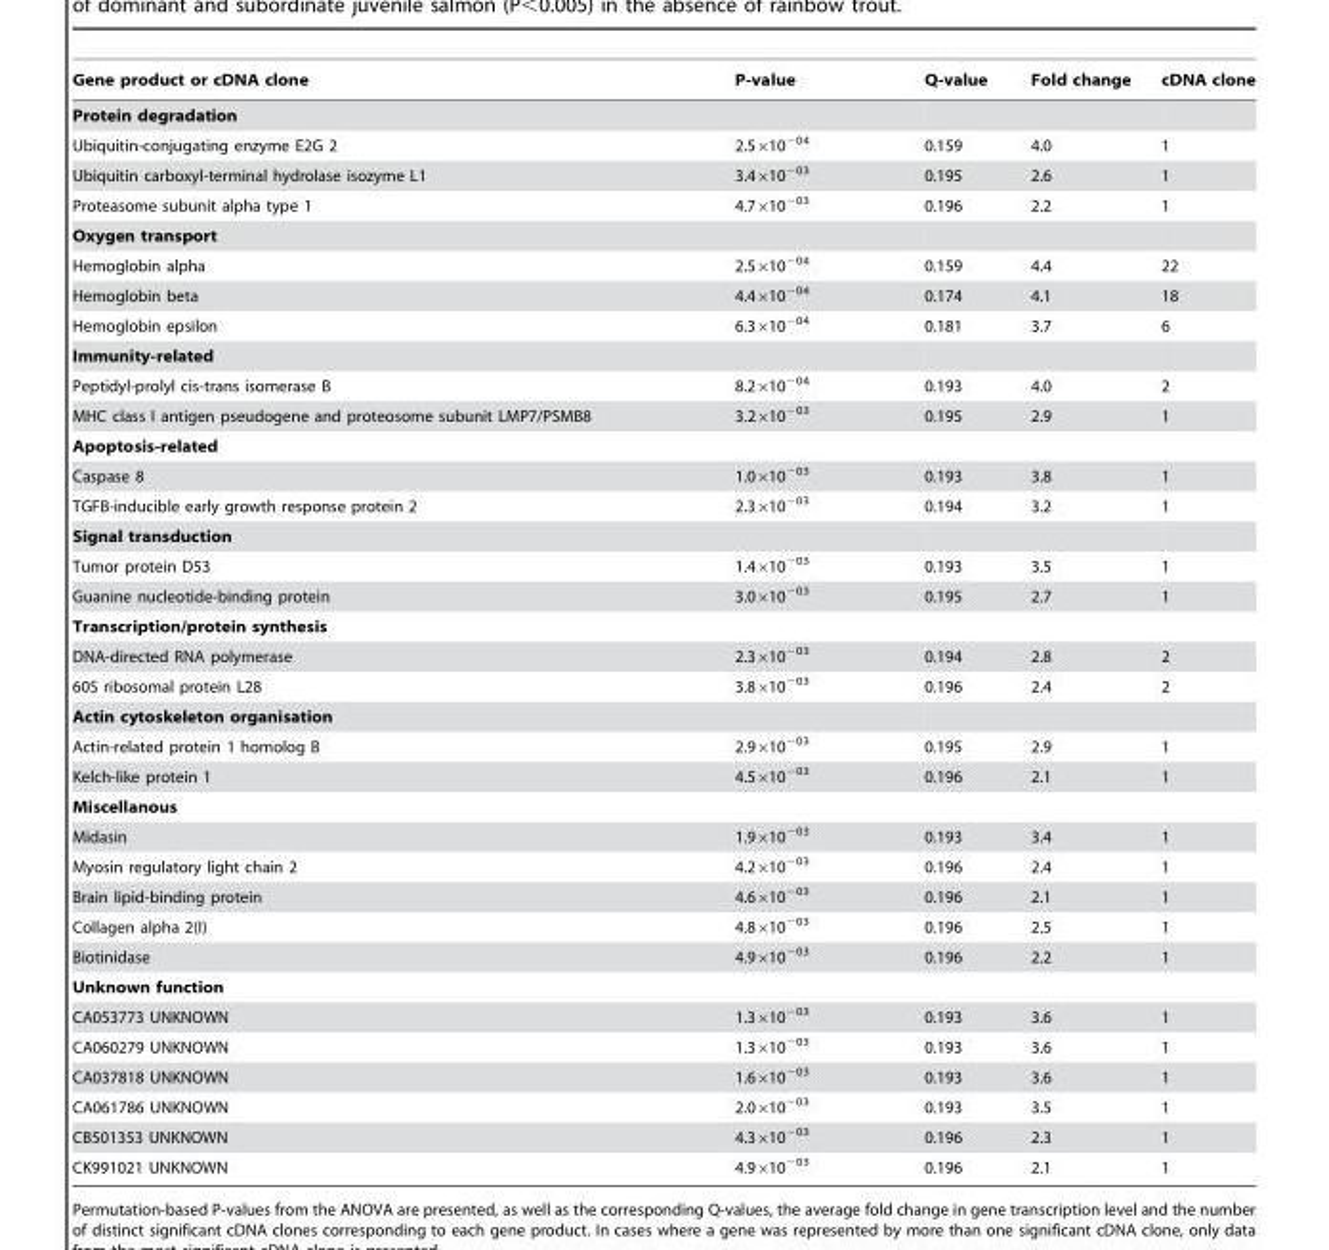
<table><thead><tr><td>Gene product or cDNA clone</td><td>P-value</td><td>Q-value</td><td>Fold change</td><td>cDNA clone</td></tr></thead><tbody><tr><td colspan="5">Protein degradation</td></tr><tr><td>Ubiquitin-conjugating enzyme E2G 2</td><td>2.5×10<sup>−04</sup></td><td>0.159</td><td>4.0</td><td>1</td></tr><tr><td>Ubiquitin carboxyl-terminal hydrolase isozyme L1</td><td>3.4×10<sup>−03</sup></td><td>0.195</td><td>2.6</td><td>1</td></tr><tr><td>Proteasome subunit alpha type 1</td><td>4.7×10<sup>−03</sup></td><td>0.196</td><td>2.2</td><td>1</td></tr><tr><td colspan="5">Oxygen transport</td></tr><tr><td>Hemoglobin alpha</td><td>2.5×10<sup>−04</sup></td><td>0.159</td><td>4.4</td><td>22</td></tr><tr><td>Hemoglobin beta</td><td>4.4×10<sup>−04</sup></td><td>0.174</td><td>4.1</td><td>18</td></tr><tr><td>Hemoglobin epsilon</td><td>6.3×10<sup>−04</sup></td><td>0.181</td><td>3.7</td><td>6</td></tr><tr><td colspan="5">Immunity-related</td></tr><tr><td>Peptidyl-prolyl cis-trans isomerase B</td><td>8.2×10<sup>−04</sup></td><td>0.193</td><td>4.0</td><td>2</td></tr><tr><td>MHC class I antigen pseudogene and proteosome subunit LMP7/PSMB8</td><td>3.2×10<sup>−03</sup></td><td>0.195</td><td>2.9</td><td>1</td></tr><tr><td colspan="5">Apoptosis-related</td></tr><tr><td>Caspase 8</td><td>1.0×10<sup>−03</sup></td><td>0.193</td><td>3.8</td><td>1</td></tr><tr><td>TGFB-inducible early growth response protein 2</td><td>2.3×10<sup>−03</sup></td><td>0.194</td><td>3.2</td><td>1</td></tr><tr><td colspan="5">Signal transduction</td></tr><tr><td>Tumor protein D53</td><td>1.4×10<sup>−03</sup></td><td>0.193</td><td>3.5</td><td>1</td></tr><tr><td>Guanine nucleotide-binding protein</td><td>3.0×10<sup>−03</sup></td><td>0.195</td><td>2.7</td><td>1</td></tr><tr><td colspan="5">Transcription/protein synthesis</td></tr><tr><td>DNA-directed RNA polymerase</td><td>2.3×10<sup>−03</sup></td><td>0.194</td><td>2.8</td><td>2</td></tr><tr><td>60S ribosomal protein L28</td><td>3.8×10<sup>−03</sup></td><td>0.196</td><td>2.4</td><td>2</td></tr><tr><td colspan="5">Actin cytoskeleton organisation</td></tr><tr><td>Actin-related protein 1 homolog B</td><td>2.9×10<sup>−03</sup></td><td>0.195</td><td>2.9</td><td>1</td></tr><tr><td>Kelch-like protein 1</td><td>4.5×10<sup>−03</sup></td><td>0.196</td><td>2.1</td><td>1</td></tr><tr><td colspan="5">Miscellanous</td></tr><tr><td>Midasin</td><td>1.9×10<sup>−03</sup></td><td>0.193</td><td>3.4</td><td>1</td></tr><tr><td>Myosin regulatory light chain 2</td><td>4.2×10<sup>−03</sup></td><td>0.196</td><td>2.4</td><td>1</td></tr><tr><td>Brain lipid-binding protein</td><td>4.6×10<sup>−03</sup></td><td>0.196</td><td>2.1</td><td>1</td></tr><tr><td>Collagen alpha 2(I)</td><td>4.8×10<sup>−03</sup></td><td>0.196</td><td>2.5</td><td>1</td></tr><tr><td>Biotinidase</td><td>4.9×10<sup>−03</sup></td><td>0.196</td><td>2.2</td><td>1</td></tr><tr><td colspan="5">Unknown function</td></tr><tr><td>CA053773 UNKNOWN</td><td>1.3×10<sup>−03</sup></td><td>0.193</td><td>3.6</td><td>1</td></tr><tr><td>CA060279 UNKNOWN</td><td>1.3×10<sup>−03</sup></td><td>0.193</td><td>3.6</td><td>1</td></tr><tr><td>CA037818 UNKNOWN</td><td>1.6×10<sup>−03</sup></td><td>0.193</td><td>3.6</td><td>1</td></tr><tr><td>CA061786 UNKNOWN</td><td>2.0×10<sup>−03</sup></td><td>0.193</td><td>3.5</td><td>1</td></tr><tr><td>CB501353 UNKNOWN</td><td>4.3×10<sup>−03</sup></td><td>0.196</td><td>2.3</td><td>1</td></tr><tr><td>CK991021 UNKNOWN</td><td>4.9×10<sup>−03</sup></td><td>0.196</td><td>2.1</td><td>1</td></tr></tbody></table>